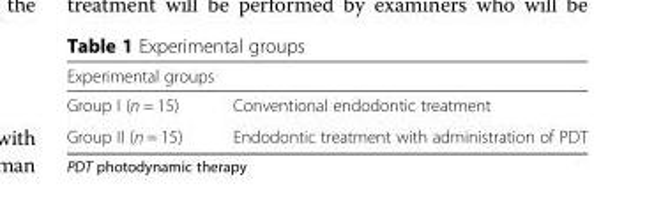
<table><thead><tr><td colspan="2">Experimental groups</td></tr><tr><td>Group I (n = 15)</td><td>Conventional endodontic treatment</td></tr></thead><tbody><tr><td>Group II (n = 15)</td><td>Endodontic treatment with administration of PDT</td></tr></tbody></table>